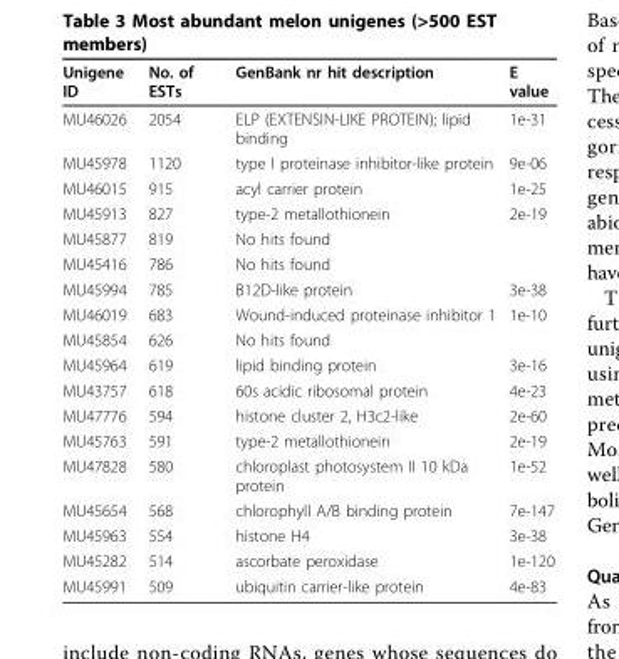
<table><thead><tr><td>Unigene ID</td><td>No. of ESTs</td><td>GenBank nr hit description</td><td>E value</td></tr></thead><tbody><tr><td>MU46026</td><td>2054</td><td>ELP (EXTENSIN-LIKE PROTEIN); lipid binding</td><td>1e-31</td></tr><tr><td>MU45978</td><td>1120</td><td>type I proteinase inhibitor-like protein</td><td>9e-06</td></tr><tr><td>MU46015</td><td>915</td><td>acyl carrier protein</td><td>1e-25</td></tr><tr><td>MU45913</td><td>827</td><td>type-2 metallothionein</td><td>2e-19</td></tr><tr><td>MU45877</td><td>819</td><td>No hits found</td><td></td></tr><tr><td>MU45416</td><td>786</td><td>No hits found</td><td></td></tr><tr><td>MU45994</td><td>785</td><td>B12D-like protein</td><td>3e-38</td></tr><tr><td>MU46019</td><td>683</td><td>Wound-induced proteinase inhibitor 1</td><td>1e-10</td></tr><tr><td>MU45854</td><td>626</td><td>No hits found</td><td></td></tr><tr><td>MU45964</td><td>619</td><td>lipid binding protein</td><td>3e-16</td></tr><tr><td>MU43757</td><td>618</td><td>60s acidic ribosomal protein</td><td>4e-23</td></tr><tr><td>MU47776</td><td>594</td><td>histone cluster 2, H3c2-like</td><td>2e-60</td></tr><tr><td>MU45763</td><td>591</td><td>type-2 metallothionein</td><td>2e-19</td></tr><tr><td>MU47828</td><td>580</td><td>chloroplast photosystem II 10 kDa protein</td><td>1e-52</td></tr><tr><td>MU45654</td><td>568</td><td>chlorophyll A/B binding protein</td><td>7e-147</td></tr><tr><td>MU45963</td><td>554</td><td>histone H4</td><td>3e-38</td></tr><tr><td>MU45282</td><td>514</td><td>ascorbate peroxidase</td><td>1e-120</td></tr><tr><td>MU45991</td><td>509</td><td>ubiquitin carrier-like protein</td><td>4e-83</td></tr></tbody></table>